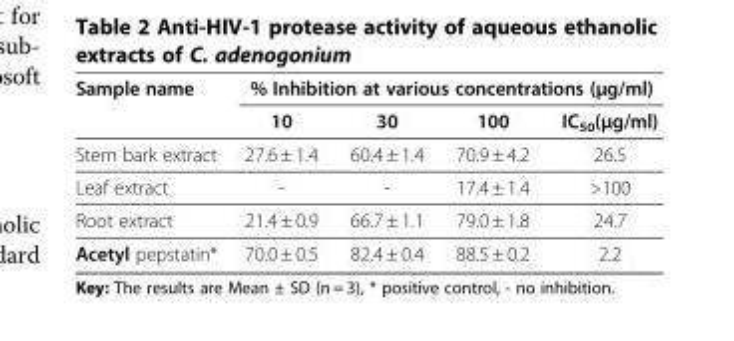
<table><thead><tr><td rowspan="2">Sample name</td><td colspan="4">% Inhibition at various concentrations (μg/ml)</td></tr><tr><td>10</td><td>30</td><td>100</td><td>IC<sub>50</sub>(μg/ml)</td></tr></thead><tbody><tr><td>Stem bark extract</td><td>27.6 ± 1.4</td><td>60.4 ± 1.4</td><td>70.9 ± 4.2</td><td>26.5</td></tr><tr><td>Leaf extract</td><td>-</td><td>-</td><td>17.4 ± 1.4</td><td>&gt;100</td></tr><tr><td>Root extract</td><td>21.4 ± 0.9</td><td>66.7 ± 1.1</td><td>79.0 ± 1.8</td><td>24.7</td></tr><tr><td>Acetyl pepstatin*</td><td>70.0 ± 0.5</td><td>82.4 ± 0.4</td><td>88.5 ± 0.2</td><td>2.2</td></tr></tbody></table>